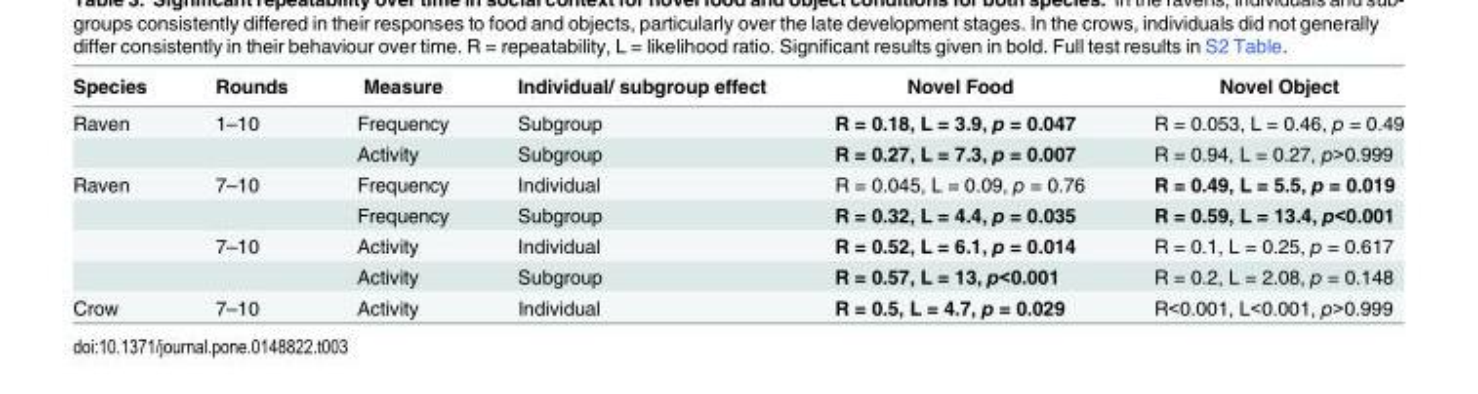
<table><thead><tr><td>Species</td><td>Rounds</td><td>Measure</td><td>Individual/ subgroup effect</td><td>Novel Food</td><td>Novel Object</td></tr></thead><tbody><tr><td rowspan="2">Raven</td><td>1–10</td><td>Frequency</td><td>Subgroup</td><td>R = 0.18, L = 3.9, p = 0.047</td><td>R = 0.053, L = 0.46, p = 0.49</td></tr><tr><td></td><td>Activity</td><td>Subgroup</td><td>R = 0.27, L = 7.3, p = 0.007</td><td>R = 0.94, L = 0.27, p&gt;0.999</td></tr><tr><td rowspan="4">Raven</td><td>7–10</td><td>Frequency</td><td>Individual</td><td>R = 0.045, L = 0.09, p = 0.76</td><td>R = 0.49, L = 5.5, p = 0.019</td></tr><tr><td></td><td>Frequency</td><td>Subgroup</td><td>R = 0.32, L = 4.4, p = 0.035</td><td>R = 0.59, L = 13.4, p&lt;0.001</td></tr><tr><td>7–10</td><td>Activity</td><td>Individual</td><td>R = 0.52, L = 6.1, p = 0.014</td><td>R = 0.1, L = 0.25, p = 0.617</td></tr><tr><td></td><td>Activity</td><td>Subgroup</td><td>R = 0.57, L = 13, p&lt;0.001</td><td>R = 0.2, L = 2.08, p = 0.148</td></tr><tr><td>Crow</td><td>7–10</td><td>Activity</td><td>Individual</td><td>R = 0.5, L = 4.7, p = 0.029</td><td>R&lt;0.001, L&lt;0.001, p&gt;0.999</td></tr></tbody></table>